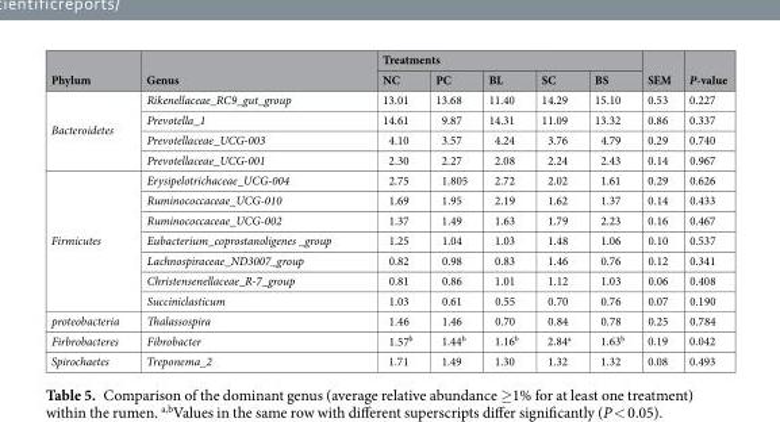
<table><thead><tr><td rowspan="2">Phylum</td><td rowspan="2">Genus</td><td colspan="5">Treatments</td><td rowspan="2">SEM</td><td rowspan="2">P-value</td></tr><tr><td>NC</td><td>PC</td><td>BL</td><td>SC</td><td>BS</td></tr></thead><tbody><tr><td rowspan="4">Bacteroidetes</td><td>Rikenellaceae_RC9_gut_group</td><td>13.01</td><td>13.68</td><td>11.40</td><td>14.29</td><td>15.10</td><td>0.53</td><td>0.227</td></tr><tr><td>Prevotella_1</td><td>14.61</td><td>9.87</td><td>14.31</td><td>11.09</td><td>13.32</td><td>0.86</td><td>0.337</td></tr><tr><td>Prevotellaceae_UCG-003</td><td>4.10</td><td>3.57</td><td>4.24</td><td>3.76</td><td>4.79</td><td>0.29</td><td>0.740</td></tr><tr><td>Prevotellaceae_UCG-001</td><td>2.30</td><td>2.27</td><td>2.08</td><td>2.24</td><td>2.43</td><td>0.14</td><td>0.967</td></tr><tr><td rowspan="7">Firmicutes</td><td>Erysipelotrichaceae_UCG-004</td><td>2.75</td><td>1.805</td><td>2.72</td><td>2.02</td><td>1.61</td><td>0.29</td><td>0.626</td></tr><tr><td>Ruminococcaceae_UCG-010</td><td>1.69</td><td>1.95</td><td>2.19</td><td>1.62</td><td>1.37</td><td>0.14</td><td>0.433</td></tr><tr><td>Ruminococcaceae_UCG-002</td><td>1.37</td><td>1.49</td><td>1.63</td><td>1.79</td><td>2.23</td><td>0.16</td><td>0.467</td></tr><tr><td>Eubacterium_coprostanoligenes _group</td><td>1.25</td><td>1.04</td><td>1.03</td><td>1.48</td><td>1.06</td><td>0.10</td><td>0.537</td></tr><tr><td>Lachnospiraceae_ND3007_group</td><td>0.82</td><td>0.98</td><td>0.83</td><td>1.46</td><td>0.76</td><td>0.12</td><td>0.341</td></tr><tr><td>Christensenellaceae_R-7_group</td><td>0.81</td><td>0.86</td><td>1.01</td><td>1.12</td><td>1.03</td><td>0.06</td><td>0.408</td></tr><tr><td>Succiniclasticum</td><td>1.03</td><td>0.61</td><td>0.55</td><td>0.70</td><td>0.76</td><td>0.07</td><td>0.190</td></tr><tr><td>proteobacteria</td><td>Thalassospira</td><td>1.46</td><td>1.46</td><td>0.70</td><td>0.84</td><td>0.78</td><td>0.25</td><td>0.784</td></tr><tr><td>Firbrobacteres</td><td>Fibrobacter</td><td>1.57<sup>b</sup></td><td>1.44<sup>b</sup></td><td>1.16<sup>b</sup></td><td>2.84<sup>a</sup></td><td>1.63<sup>b</sup></td><td>0.19</td><td>0.042</td></tr><tr><td>Spirochaetes</td><td>Treponema_2</td><td>1.71</td><td>1.49</td><td>1.30</td><td>1.32</td><td>1.32</td><td>0.08</td><td>0.493</td></tr></tbody></table>